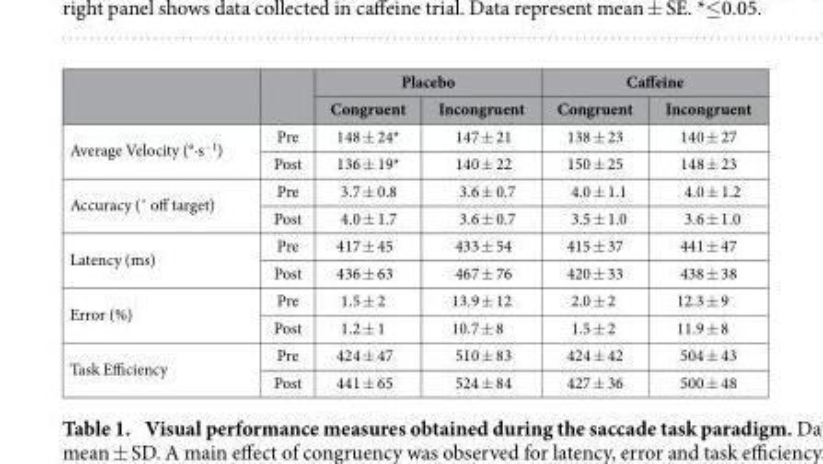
<table><thead><tr><td rowspan="2"></td><td rowspan="2"></td><td colspan="2">Placebo</td><td colspan="2">Caffeine</td></tr><tr><td>Congruent</td><td>Incongruent</td><td>Congruent</td><td>Incongruent</td></tr></thead><tbody><tr><td rowspan="2">Average Velocity (°∙s<sup>−1</sup>)</td><td>Pre</td><td>148 ± 24*</td><td>147 ± 21</td><td>138 ± 23</td><td>140 ± 27</td></tr><tr><td>Post</td><td>136 ± 19*</td><td>140 ± 22</td><td>150 ± 25</td><td>148 ± 23</td></tr><tr><td rowspan="2">Accuracy (˚ off target)</td><td>Pre</td><td>3.7 ± 0.8</td><td>3.6 ± 0.7</td><td>4.0 ± 1.1</td><td>4.0 ± 1.2</td></tr><tr><td>Post</td><td>4.0 ± 1.7</td><td>3.6 ± 0.7</td><td>3.5 ± 1.0</td><td>3.6 ± 1.0</td></tr><tr><td rowspan="2">Latency (ms)</td><td>Pre</td><td>417 ± 45</td><td>433 ± 54</td><td>415 ± 37</td><td>441 ± 47</td></tr><tr><td>Post</td><td>436 ± 63</td><td>467 ± 76</td><td>420 ± 33</td><td>438 ± 38</td></tr><tr><td rowspan="2">Error (%)</td><td>Pre</td><td>1.5 ± 2</td><td>13.9 ± 12</td><td>2.0 ± 2</td><td>12.3 ± 9</td></tr><tr><td>Post</td><td>1.2 ± 1</td><td>10.7 ± 8</td><td>1.5 ± 2</td><td>11.9 ± 8</td></tr><tr><td rowspan="2">Task Efficiency</td><td>Pre</td><td>424 ± 47</td><td>510 ± 83</td><td>424 ± 42</td><td>504 ± 43</td></tr><tr><td>Post</td><td>441 ± 65</td><td>524 ± 84</td><td>427 ± 36</td><td>500 ± 48</td></tr></tbody></table>